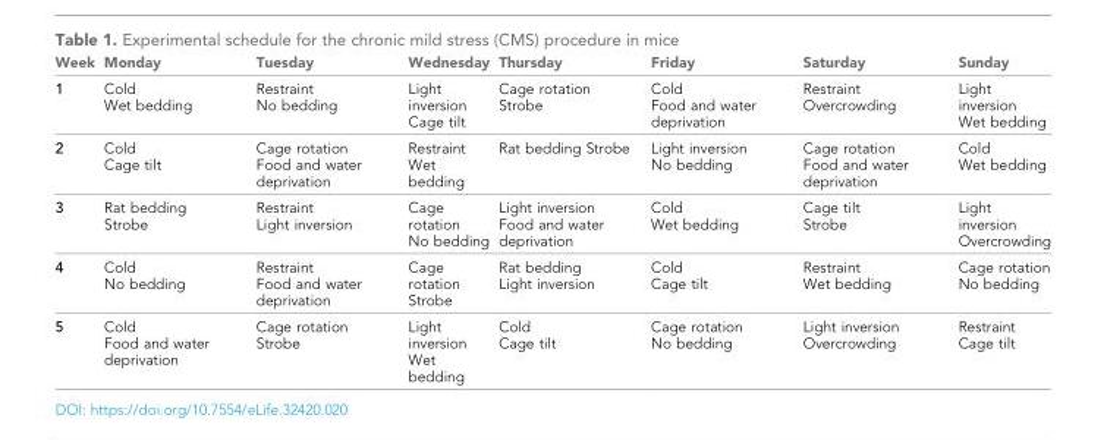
<table><thead><tr><td>Week</td><td>Monday</td><td>Tuesday</td><td>Wednesday</td><td>Thursday</td><td>Friday</td><td>Saturday</td><td>Sunday</td></tr></thead><tbody><tr><td>1</td><td>Cold Wet bedding</td><td>Restraint No bedding</td><td>Light inversion Cage tilt</td><td>Cage rotation Strobe</td><td>Cold Food and water deprivation</td><td>Restraint Overcrowding</td><td>Light inversion Wet bedding</td></tr><tr><td>2</td><td>Cold Cage tilt</td><td>Cage rotation Food and water deprivation</td><td>Restraint Wet bedding</td><td>Rat bedding Strobe</td><td>Light inversion No bedding</td><td>Cage rotation Food and water deprivation</td><td>Cold Wet bedding</td></tr><tr><td>3</td><td>Rat bedding Strobe</td><td>Restraint Light inversion</td><td>Cage rotation No bedding</td><td>Light inversion Food and water deprivation</td><td>Cold Wet bedding</td><td>Cage tilt Strobe</td><td>Light inversion Overcrowding</td></tr><tr><td>4</td><td>Cold No bedding</td><td>Restraint Food and water deprivation</td><td>Cage rotation Strobe</td><td>Rat bedding Light inversion</td><td>Cold Cage tilt</td><td>Restraint Wet bedding</td><td>Cage rotation No bedding</td></tr><tr><td>5</td><td>Cold Food and water deprivation</td><td>Cage rotation Strobe</td><td>Light inversion Wet bedding</td><td>Cold Cage tilt</td><td>Cage rotation No bedding</td><td>Light inversion Overcrowding</td><td>Restraint Cage tilt</td></tr></tbody></table>